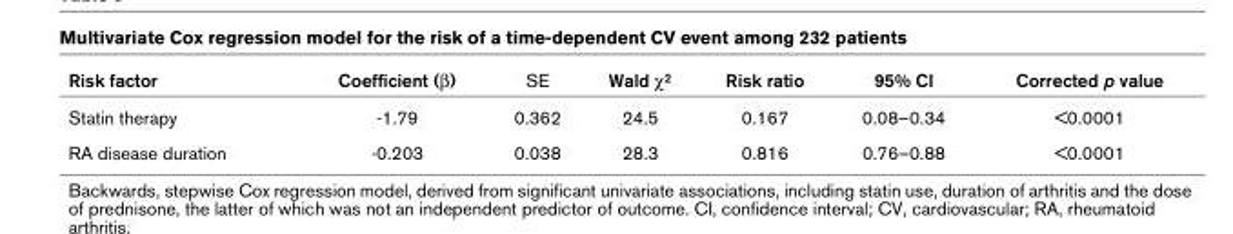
<table><thead><tr><td>Risk factor</td><td>Coefficient (β)</td><td>SE</td><td>Wald χ<sup>2</sup></td><td>Risk ratio</td><td>95% CI</td><td>Corrected p value</td></tr></thead><tbody><tr><td>Statin therapy</td><td>-1.79</td><td>0.362</td><td>24.5</td><td>0.167</td><td>0.08–0.34</td><td>&lt;0.0001</td></tr><tr><td>RA disease duration</td><td>-0.203</td><td>0.038</td><td>28.3</td><td>0.816</td><td>0.76–0.88</td><td>&lt;0.0001</td></tr></tbody></table>